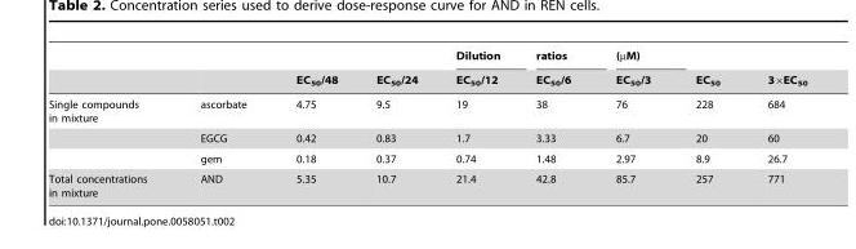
<table><thead><tr><td rowspan="2"></td><td rowspan="2"></td><td rowspan="2">EC<sub>50</sub>/48</td><td rowspan="2">EC<sub>50</sub>/24</td><td rowspan="2">Dilution EC<sub>50</sub>/12</td><td rowspan="2">ratios EC<sub>50</sub>/6</td><td rowspan="2">(µM) EC<sub>50</sub>/3</td><td rowspan="2">EC<sub>50</sub></td><td rowspan="2">3×EC<sub>50</sub></td></tr><tr></tr></thead><tbody><tr><td rowspan="3">Single compounds in mixture</td><td>ascorbate</td><td>4.75</td><td>9.5</td><td>19</td><td>38</td><td>76</td><td>228</td><td>684</td></tr><tr><td>EGCG</td><td>0.42</td><td>0.83</td><td>1.7</td><td>3.33</td><td>6.7</td><td>20</td><td>60</td></tr><tr><td>gem</td><td>0.18</td><td>0.37</td><td>0.74</td><td>1.48</td><td>2.97</td><td>8.9</td><td>26.7</td></tr><tr><td>Total concentrations in mixture</td><td>AND</td><td>5.35</td><td>10.7</td><td>21.4</td><td>42.8</td><td>85.7</td><td>257</td><td>771</td></tr></tbody></table>